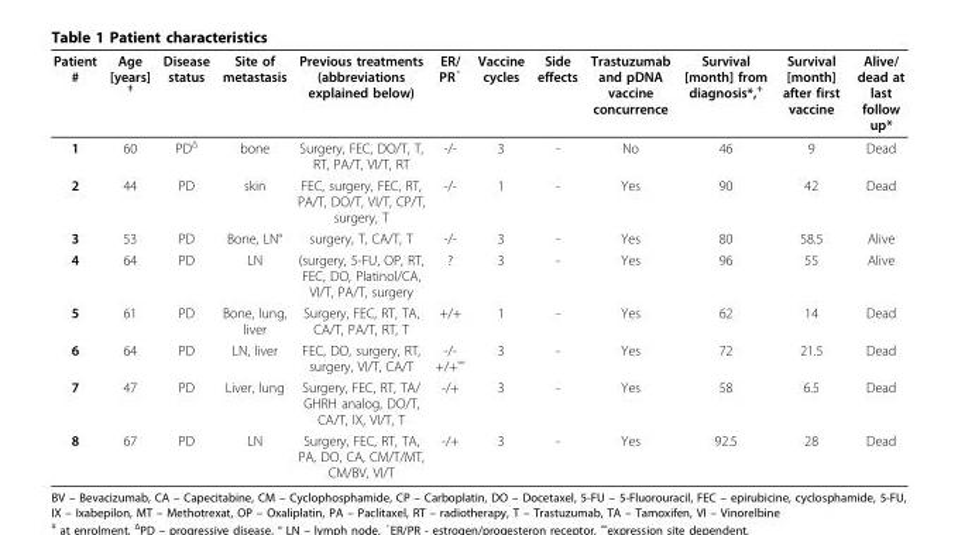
<table><thead><tr><td>Patient #</td><td>Age [years] <sup>ǂ</sup></td><td>Disease status</td><td>Site of metastasis</td><td>Previous treatments (abbreviations explained below)</td><td>ER/ PR<sup>▫</sup></td><td>Vaccine cycles</td><td>Side effects</td><td>Trastuzumab and pDNA vaccine concurrence</td><td>Survival [month] from diagnosis*,<sup>+</sup></td><td>Survival [month] after first vaccine</td><td>Alive/ dead at last follow up*</td></tr></thead><tbody><tr><td>1</td><td>60</td><td>PD<sup>Δ</sup></td><td>bone</td><td>Surgery, FEC, DO/T, T, RT, PA/T, VI/T, RT</td><td>-/-</td><td>3</td><td>-</td><td>No</td><td>46</td><td>9</td><td>Dead</td></tr><tr><td>2</td><td>44</td><td>PD</td><td>skin</td><td>FEC, surgery, FEC, RT, PA/T, DO/T, VI/T, CP/T, surgery, T</td><td>-/-</td><td>1</td><td>-</td><td>Yes</td><td>90</td><td>42</td><td>Dead</td></tr><tr><td>3</td><td>53</td><td>PD</td><td>Bone, LN°</td><td>surgery, T, CA/T, T</td><td>-/-</td><td>3</td><td>-</td><td>Yes</td><td>80</td><td>58.5</td><td>Alive</td></tr><tr><td>4</td><td>64</td><td>PD</td><td>LN</td><td>(surgery, 5-FU, OP, RT, FEC, DO, Platinol/CA, VI/T, PA/T, surgery</td><td>?</td><td>3</td><td>-</td><td>Yes</td><td>96</td><td>55</td><td>Alive</td></tr><tr><td>5</td><td>61</td><td>PD</td><td>Bone, lung, liver</td><td>Surgery, FEC, RT, TA, CA/T, PA/T, RT, T</td><td>+/+</td><td>1</td><td>-</td><td>Yes</td><td>62</td><td>14</td><td>Dead</td></tr><tr><td>6</td><td>64</td><td>PD</td><td>LN, liver</td><td>FEC, DO, surgery, RT, surgery, VI/T, CA/T</td><td>-/- +/+<sup>∞</sup></td><td>3</td><td>-</td><td>Yes</td><td>72</td><td>21.5</td><td>Dead</td></tr><tr><td>7</td><td>47</td><td>PD</td><td>Liver, lung</td><td>Surgery, FEC, RT, TA/ GHRH analog, DO/T, CA/T, IX, VI/T, T</td><td>-/+</td><td>3</td><td>-</td><td>Yes</td><td>58</td><td>6.5</td><td>Dead</td></tr><tr><td>8</td><td>67</td><td>PD</td><td>LN</td><td>Surgery, FEC, RT, TA, PA, DO, CA, CM/T/MT, CM/BV, VI/T</td><td>-/+</td><td>3</td><td>-</td><td>Yes</td><td>92.5</td><td>28</td><td>Dead</td></tr></tbody></table>